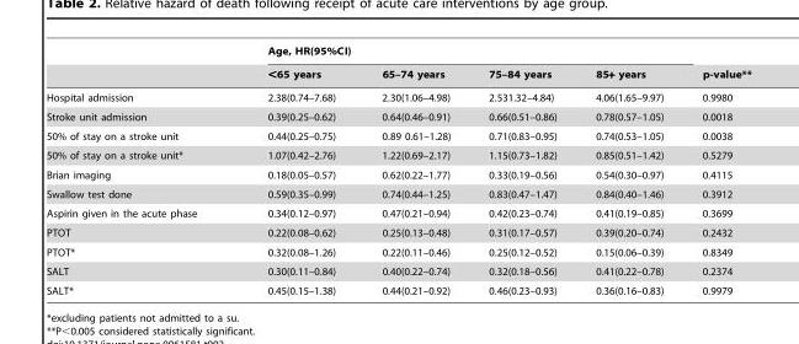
<table><thead><tr><td rowspan="2"></td><td colspan="4">Age, HR(95%CI)</td><td rowspan="2">p-value**</td></tr><tr><td>&lt;65 years</td><td>65–74 years</td><td>75–84 years</td><td>85+ years</td></tr></thead><tbody><tr><td>Hospital admission</td><td>2.38(0.74–7.68)</td><td>2.30(1.06–4.98)</td><td>2.531.32–4.84)</td><td>4.06(1.65–9.97)</td><td>0.9980</td></tr><tr><td>Stroke unit admission</td><td>0.39(0.25–0.62)</td><td>0.64(0.46–0.91)</td><td>0.66(0.51–0.86)</td><td>0.78(0.57–1.05)</td><td>0.0018</td></tr><tr><td>50% of stay on a stroke unit</td><td>0.44(0.25–0.75)</td><td>0.89 0.61–1.28)</td><td>0.71(0.83–0.95)</td><td>0.74(0.53–1.05)</td><td>0.0038</td></tr><tr><td>50% of stay on a stroke unit*</td><td>1.07(0.42–2.76)</td><td>1.22(0.69–2.17)</td><td>1.15(0.73–1.82)</td><td>0.85(0.51–1.42)</td><td>0.5279</td></tr><tr><td>Brian imaging</td><td>0.18(0.05–0.57)</td><td>0.62(0.22–1.77)</td><td>0.33(0.19–0.56)</td><td>0.54(0.30–0.97)</td><td>0.4115</td></tr><tr><td>Swallow test done</td><td>0.59(0.35–0.99)</td><td>0.74(0.44–1.25)</td><td>0.83(0.47–1.47)</td><td>0.84(0.40–1.46)</td><td>0.3912</td></tr><tr><td>Aspirin given in the acute phase</td><td>0.34(0.12–0.97)</td><td>0.47(0.21–0.94)</td><td>0.42(0.23–0.74)</td><td>0.41(0.19–0.85)</td><td>0.3699</td></tr><tr><td>PTOT</td><td>0.22(0.08–0.62)</td><td>0.25(0.13–0.48)</td><td>0.31(0.17–0.57)</td><td>0.39(0.20–0.74)</td><td>0.2432</td></tr><tr><td>PTOT*</td><td>0.32(0.08–1.26)</td><td>0.22(0.11–0.46)</td><td>0.25(0.12–0.52)</td><td>0.15(0.06–0.39)</td><td>0.8349</td></tr><tr><td>SALT</td><td>0.30(0.11–0.84)</td><td>0.40(0.22–0.74)</td><td>0.32(0.18–0.56)</td><td>0.41(0.22–0.78)</td><td>0.2374</td></tr><tr><td>SALT*</td><td>0.45(0.15–1.38)</td><td>0.44(0.21–0.92)</td><td>0.46(0.23–0.93)</td><td>0.36(0.16–0.83)</td><td>0.9979</td></tr></tbody></table>